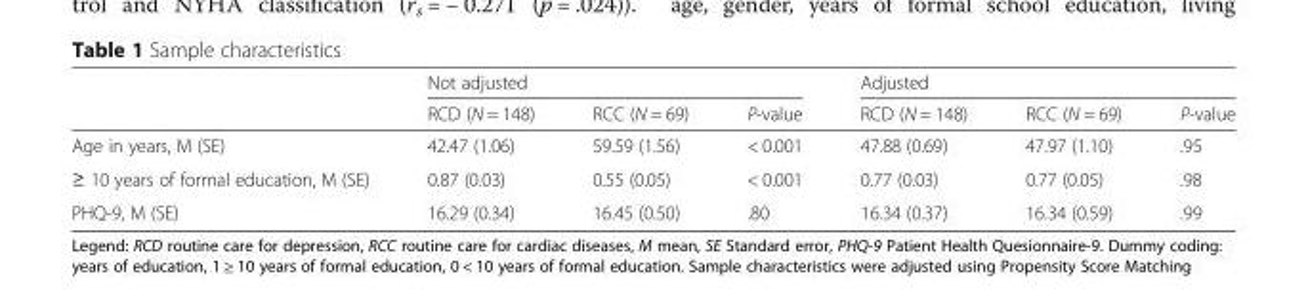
<table><thead><tr><td rowspan="2"></td><td colspan="3">Not adjusted</td><td colspan="3">Adjusted</td></tr><tr><td>RCD (N = 148)</td><td>RCC (N = 69)</td><td>P-value</td><td>RCD (N = 148)</td><td>RCC (N = 69)</td><td>P-value</td></tr></thead><tbody><tr><td>Age in years, M (SE)</td><td>42.47 (1.06)</td><td>59.59 (1.56)</td><td>&lt; 0.001</td><td>47.88 (0.69)</td><td>47.97 (1.10)</td><td>.95</td></tr><tr><td>≥ 10 years of formal education, M (SE)</td><td>0.87 (0.03)</td><td>0.55 (0.05)</td><td>&lt; 0.001</td><td>0.77 (0.03)</td><td>0.77 (0.05)</td><td>.98</td></tr><tr><td>PHQ-9, M (SE)</td><td>16.29 (0.34)</td><td>16.45 (0.50)</td><td>.80</td><td>16.34 (0.37)</td><td>16.34 (0.59)</td><td>.99</td></tr></tbody></table>